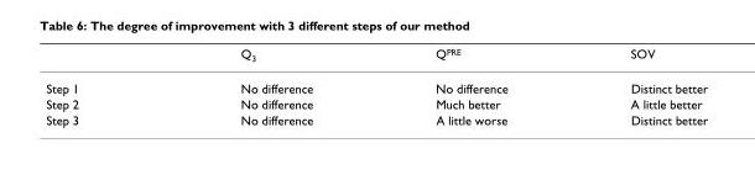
<table><thead><tr><td></td><td>Q3</td><td>QPRE</td><td>SOV</td></tr></thead><tbody><tr><td>Step 1</td><td>No difference</td><td>No difference</td><td>Distinct better</td></tr><tr><td>Step 2</td><td>No difference</td><td>Much better</td><td>A little better</td></tr><tr><td>Step 3</td><td>No difference</td><td>A little worse</td><td>Distinct better</td></tr></tbody></table>